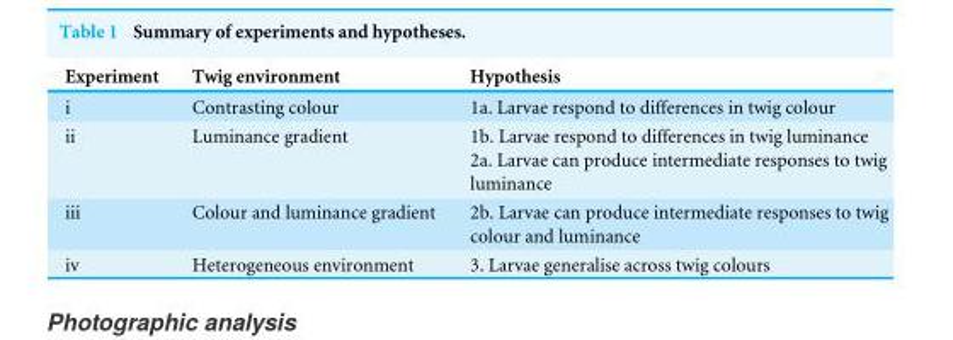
<table><thead><tr><td>Experiment</td><td>Twig environment</td><td>Hypothesis</td></tr></thead><tbody><tr><td>i</td><td>Contrasting colour</td><td>1a. Larvae respond to differences in twig colour</td></tr><tr><td>ii</td><td>Luminance gradient</td><td>1b. Larvae respond to differences in twig luminance 2a. Larvae can produce intermediate responses to twig luminance</td></tr><tr><td>iii</td><td>Colour and luminance gradient</td><td>2b. Larvae can produce intermediate responses to twig colour and luminance</td></tr><tr><td>iv</td><td>Heterogeneous environment</td><td>3. Larvae generalise across twig colours</td></tr></tbody></table>